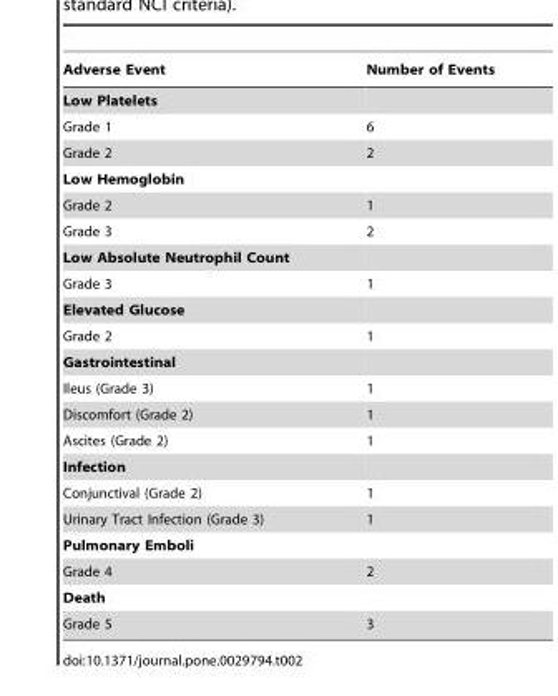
<table><thead><tr><td>Adverse Event</td><td>Number of Events</td></tr></thead><tbody><tr><td colspan="2">Low Platelets</td></tr><tr><td>Grade 1</td><td>6</td></tr><tr><td>Grade 2</td><td>2</td></tr><tr><td colspan="2">Low Hemoglobin</td></tr><tr><td>Grade 2</td><td>1</td></tr><tr><td>Grade 3</td><td>2</td></tr><tr><td colspan="2">Low Absolute Neutrophil Count</td></tr><tr><td>Grade 3</td><td>1</td></tr><tr><td colspan="2">Elevated Glucose</td></tr><tr><td>Grade 2</td><td>1</td></tr><tr><td colspan="2">Gastrointestinal</td></tr><tr><td>Ileus (Grade 3)</td><td>1</td></tr><tr><td>Discomfort (Grade 2)</td><td>1</td></tr><tr><td>Ascites (Grade 2)</td><td>1</td></tr><tr><td colspan="2">Infection</td></tr><tr><td>Conjunctival (Grade 2)</td><td>1</td></tr><tr><td>Urinary Tract Infection (Grade 3)</td><td>1</td></tr><tr><td colspan="2">Pulmonary Emboli</td></tr><tr><td>Grade 4</td><td>2</td></tr><tr><td colspan="2">Death</td></tr><tr><td>Grade 5</td><td>3</td></tr></tbody></table>